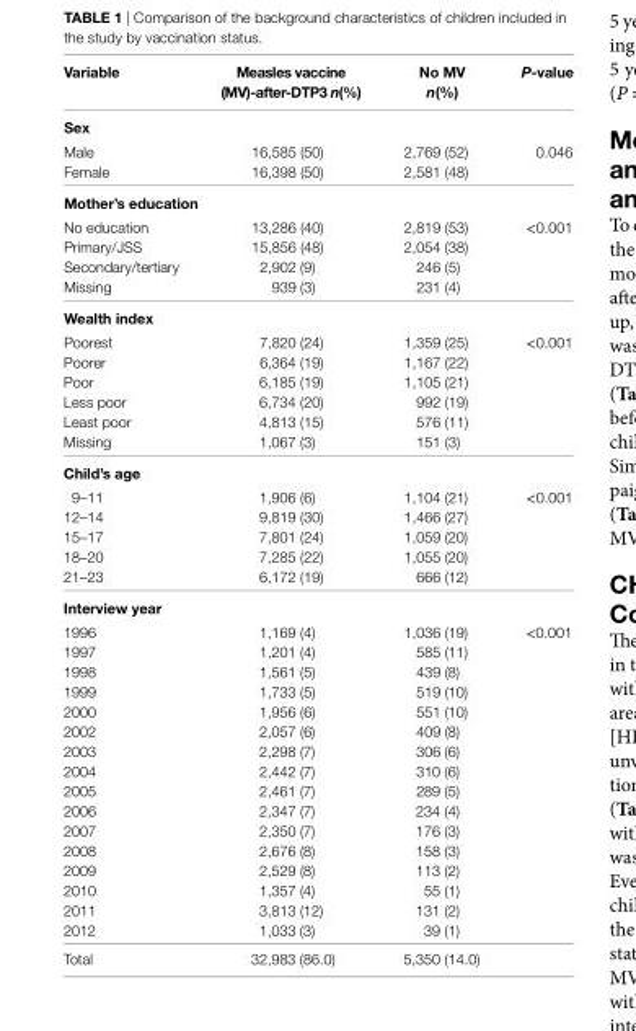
<table><thead><tr><td>Variable</td><td>Measles vaccine (MV)-after-DTP3 n(%)</td><td>no MV n(%)</td><td>P-value</td></tr></thead><tbody><tr><td colspan="4">sex</td></tr><tr><td>Male</td><td>16,585 (50)</td><td>2,769 (52)</td><td rowspan="2">0.046</td></tr><tr><td>Female</td><td>16,398 (50)</td><td>2,581 (48)</td></tr><tr><td colspan="4">Mother’s education</td></tr><tr><td>No education</td><td>13,286 (40)</td><td>2,819 (53)</td><td rowspan="4">&lt;0.001</td></tr><tr><td>Primary/JSS</td><td>15,856 (48)</td><td>2,054 (38)</td></tr><tr><td>Secondary/tertiary</td><td>2,902 (9)</td><td>246 (5)</td></tr><tr><td>Missing</td><td>939 (3)</td><td>231 (4)</td></tr><tr><td colspan="4">Wealth index</td></tr><tr><td>Poorest</td><td>7,820 (24)</td><td>1,359 (25)</td><td rowspan="6">&lt;0.001</td></tr><tr><td>Poorer</td><td>6,364 (19)</td><td>1,167 (22)</td></tr><tr><td>Poor</td><td>6,185 (19)</td><td>1,105 (21)</td></tr><tr><td>Less poor</td><td>6,734 (20)</td><td>992 (19)</td></tr><tr><td>Least poor</td><td>4,813 (15)</td><td>576 (11)</td></tr><tr><td>Missing</td><td>1,067 (3)</td><td>151 (3)</td></tr><tr><td colspan="4">child’s age</td></tr><tr><td>9–11</td><td>1,906 (6)</td><td>1,104 (21)</td><td rowspan="5">&lt;0.001</td></tr><tr><td>12–14</td><td>9,819 (30)</td><td>1,466 (27)</td></tr><tr><td>15–17</td><td>7,801 (24)</td><td>1,059 (20)</td></tr><tr><td>18–20</td><td>7,285 (22)</td><td>1,055 (20)</td></tr><tr><td>21–23</td><td>6,172 (19)</td><td>666 (12)</td></tr><tr><td colspan="4">interview year</td></tr><tr><td>1996</td><td>1,169 (4)</td><td>1,036 (19)</td><td rowspan="16">&lt;0.001</td></tr><tr><td>1997</td><td>1,201 (4)</td><td>585 (11)</td></tr><tr><td>1998</td><td>1,561 (5)</td><td>439 (8)</td></tr><tr><td>1999</td><td>1,733 (5)</td><td>519 (10)</td></tr><tr><td>2000</td><td>1,956 (6)</td><td>551 (10)</td></tr><tr><td>2002</td><td>2,057 (6)</td><td>409 (8)</td></tr><tr><td>2003</td><td>2,298 (7)</td><td>306 (6)</td></tr><tr><td>2004</td><td>2,442 (7)</td><td>310 (6)</td></tr><tr><td>2005</td><td>2,461 (7)</td><td>289 (5)</td></tr><tr><td>2006</td><td>2,347 (7)</td><td>234 (4)</td></tr><tr><td>2007</td><td>2,350 (7)</td><td>176 (3)</td></tr><tr><td>2008</td><td>2,676 (8)</td><td>158 (3)</td></tr><tr><td>2009</td><td>2,529 (8)</td><td>113 (2)</td></tr><tr><td>2010</td><td>1,357 (4)</td><td>55 (1)</td></tr><tr><td>2011</td><td>3,813 (12)</td><td>131 (2)</td></tr><tr><td>2012</td><td>1,033 (3)</td><td>39 (1)</td></tr><tr><td>Total</td><td>32,983 (86.0)</td><td>5,350 (14.0)</td><td></td></tr></tbody></table>